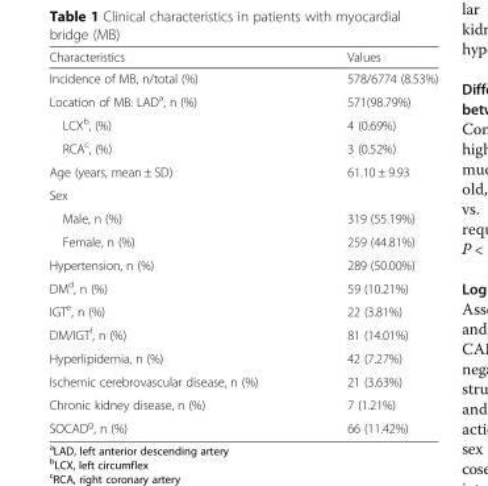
<table><thead><tr><td>Characteristics</td><td>Values</td></tr></thead><tbody><tr><td>Incidence of MB, n/total (%)</td><td>578/6774 (8.53%)</td></tr><tr><td>Location of MB: LAD<sup>a</sup>, n (%)</td><td>571(98.79%)</td></tr><tr><td>LCX<sup>b</sup>, (%)</td><td>4 (0.69%)</td></tr><tr><td>RCA<sup>c</sup>, (%)</td><td>3 (0.52%)</td></tr><tr><td>Age (years, mean ± SD)</td><td>61.10 ± 9.93</td></tr><tr><td colspan="2">Sex</td></tr><tr><td>Male, n (%)</td><td>319 (55.19%)</td></tr><tr><td>Female, n (%)</td><td>259 (44.81%)</td></tr><tr><td>Hypertension, n (%)</td><td>289 (50.00%)</td></tr><tr><td>DM<sup>d</sup>, n (%)</td><td>59 (10.21%)</td></tr><tr><td>IGT<sup>e</sup>, n (%)</td><td>22 (3.81%)</td></tr><tr><td>DM/IGT<sup>f</sup>, n (%)</td><td>81 (14.01%)</td></tr><tr><td>Hyperlipidemia, n (%)</td><td>42 (7.27%)</td></tr><tr><td>Ischemic cerebrovascular disease, n (%)</td><td>21 (3.63%)</td></tr><tr><td>Chronic kidney disease, n (%)</td><td>7 (1.21%)</td></tr><tr><td>SOCAD<sup>g</sup>, n (%)</td><td>66 (11.42%)</td></tr></tbody></table>